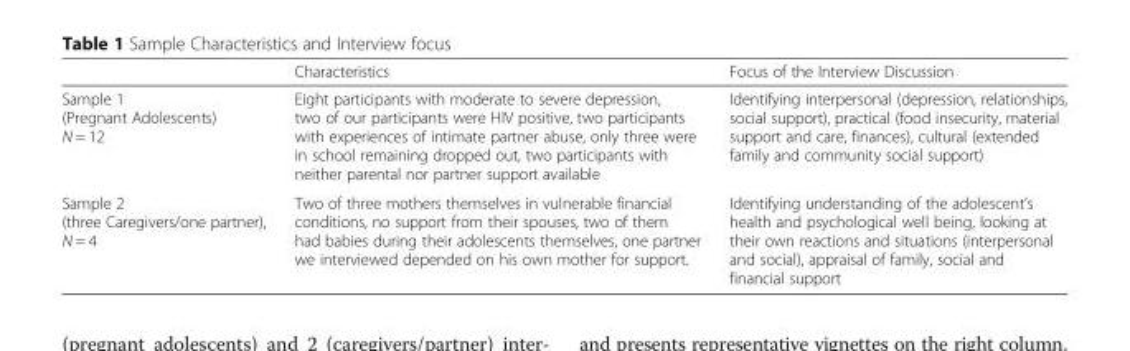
<table><thead><tr><td></td><td>Characteristics</td><td>Focus of the Interview Discussion</td></tr></thead><tbody><tr><td>Sample 1 (Pregnant Adolescents) N = 12</td><td>Eight participants with moderate to severe depression, two of our participants were HIV positive, two participants with experiences of intimate partner abuse, only three were in school remaining dropped out, two participants with neither parental nor partner support available</td><td>Identifying interpersonal (depression, relationships, social support), practical (food insecurity, material support and care, finances), cultural (extended family and community social support)</td></tr><tr><td>Sample 2 (three Caregivers/one partner), N = 4</td><td>Two of three mothers themselves in vulnerable financial conditions, no support from their spouses, two of them had babies during their adolescents themselves, one partner we interviewed depended on his own mother for support.</td><td>Identifying understanding of the adolescent’s health and psychological well being, looking at their own reactions and situations (interpersonal and social), appraisal of family, social and financial support</td></tr></tbody></table>